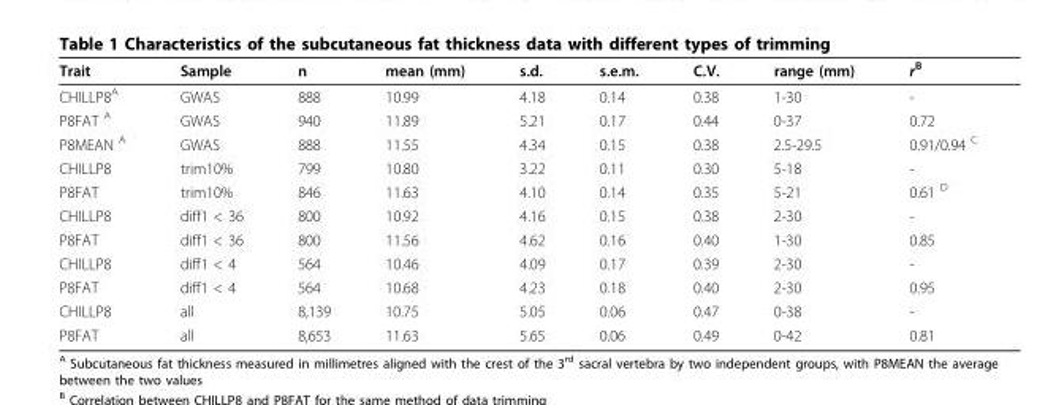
<table><thead><tr><td>Trait</td><td>Sample</td><td>n</td><td>mean (mm)</td><td>s.d.</td><td>s.e.m.</td><td>C.V.</td><td>range (mm)</td><td>r<sup>B</sup></td></tr></thead><tbody><tr><td>CHILLP8<sup>A</sup></td><td>GWAS</td><td>888</td><td>10.99</td><td>4.18</td><td>0.14</td><td>0.38</td><td>1-30</td><td>-</td></tr><tr><td>P8FAT <sup>A</sup></td><td>GWAS</td><td>940</td><td>11.89</td><td>5.21</td><td>0.17</td><td>0.44</td><td>0-37</td><td>0.72</td></tr><tr><td>P8MEAN <sup>A</sup></td><td>GWAS</td><td>888</td><td>11.55</td><td>4.34</td><td>0.15</td><td>0.38</td><td>2.5-29.5</td><td>0.91/0.94 <sup>C</sup></td></tr><tr><td>CHILLP8</td><td>trim10%</td><td>799</td><td>10.80</td><td>3.22</td><td>0.11</td><td>0.30</td><td>5-18</td><td>-</td></tr><tr><td>P8FAT</td><td>trim10%</td><td>846</td><td>11.63</td><td>4.10</td><td>0.14</td><td>0.35</td><td>5-21</td><td>0.61 <sup>D</sup></td></tr><tr><td>CHILLP8</td><td>diff1 &lt; 36</td><td>800</td><td>10.92</td><td>4.16</td><td>0.15</td><td>0.38</td><td>2-30</td><td>-</td></tr><tr><td>P8FAT</td><td>diff1 &lt; 36</td><td>800</td><td>11.56</td><td>4.62</td><td>0.16</td><td>0.40</td><td>1-30</td><td>0.85</td></tr><tr><td>CHILLP8</td><td>diff1 &lt; 4</td><td>564</td><td>10.46</td><td>4.09</td><td>0.17</td><td>0.39</td><td>2-30</td><td>-</td></tr><tr><td>P8FAT</td><td>diff1 &lt; 4</td><td>564</td><td>10.68</td><td>4.23</td><td>0.18</td><td>0.40</td><td>2-30</td><td>0.95</td></tr><tr><td>CHILLP8</td><td>all</td><td>8,139</td><td>10.75</td><td>5.05</td><td>0.06</td><td>0.47</td><td>0-38</td><td>-</td></tr><tr><td>P8FAT</td><td>all</td><td>8,653</td><td>11.63</td><td>5.65</td><td>0.06</td><td>0.49</td><td>0-42</td><td>0.81</td></tr></tbody></table>